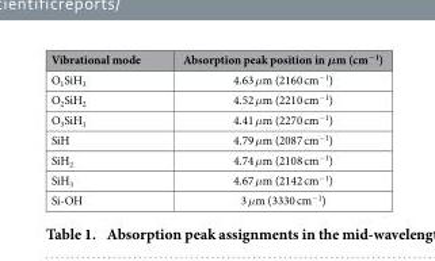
<table><thead><tr><td>Vibrational mode</td><td>Absorption peak position in μm (cm<sup>−1</sup>)</td></tr></thead><tbody><tr><td>O<sub>1</sub>SiH<sub>3</sub></td><td>4.63 μm (2160 cm<sup>−1</sup>)</td></tr><tr><td>O<sub>2</sub>SiH<sub>2</sub></td><td>4.52 μm (2210 cm<sup>−1</sup>)</td></tr><tr><td>O<sub>3</sub>SiH<sub>1</sub></td><td>4.41 μm (2270 cm<sup>−1</sup>)</td></tr><tr><td>SiH</td><td>4.79 μm (2087 cm<sup>−1</sup>)</td></tr><tr><td>SiH<sub>2</sub></td><td>4.74 μm (2108 cm<sup>−1</sup>)</td></tr><tr><td>SiH<sub>3</sub></td><td>4.67 μm (2142 cm<sup>−1</sup>)</td></tr><tr><td>Si-OH</td><td>3 μm (3330 cm<sup>−1</sup>)</td></tr></tbody></table>